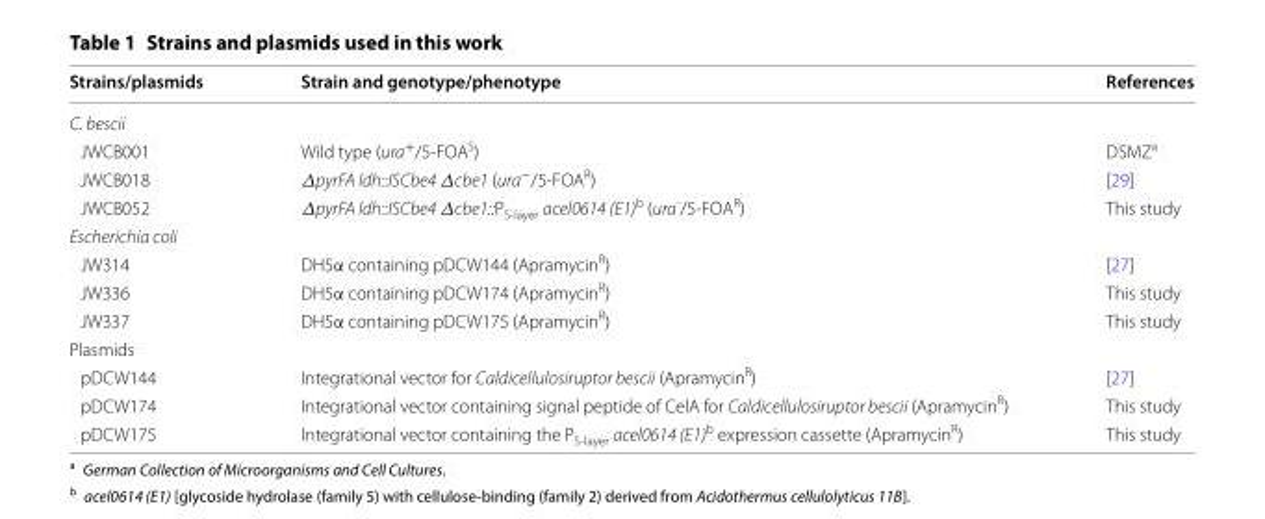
<table><thead><tr><td>Strains/plasmids</td><td>Strain and genotype/phenotype</td><td>References</td></tr></thead><tbody><tr><td colspan="3">C. bescii</td></tr><tr><td>JWCB001</td><td>Wild type (ura<sup>+</sup>/5-FOA<sup>S</sup>)</td><td>DSMZ<sup>a</sup></td></tr><tr><td>JWCB018</td><td>ΔpyrFA ldh::ISCbe4 Δcbe1 (ura<sup>−</sup>/5-FOA<sup>R</sup>)</td><td>[29]</td></tr><tr><td>JWCB052</td><td>ΔpyrFA ldh::ISCbe4 Δcbe1::P<sub>S-layer</sub> acel0614 (E1)<sup>b</sup> (ura<sup>-</sup>/5-FOA<sup>R</sup>)</td><td>This study</td></tr><tr><td colspan="3">Escherichia coli</td></tr><tr><td>JW314</td><td>DH5α containing pDCW144 (Apramycin<sup>R</sup>)</td><td>[27]</td></tr><tr><td>JW336</td><td>DH5α containing pDCW174 (Apramycin<sup>R</sup>)</td><td>This study</td></tr><tr><td>JW337</td><td>DH5α containing pDCW175 (Apramycin<sup>R</sup>)</td><td>This study</td></tr><tr><td colspan="3">Plasmids</td></tr><tr><td>pDCW144</td><td>Integrational vector for Caldicellulosiruptor bescii (Apramycin<sup>R</sup>)</td><td>[27]</td></tr><tr><td>pDCW174</td><td>Integrational vector containing signal peptide of CelA for Caldicellulosiruptor bescii (Apramycin<sup>R</sup>)</td><td>This study</td></tr><tr><td>pDCW175</td><td>Integrational vector containing the P<sub>S-layer</sub> acel0614 (E1)<sup>b</sup> expression cassette (Apramycin<sup>R</sup>)</td><td>This study</td></tr></tbody></table>